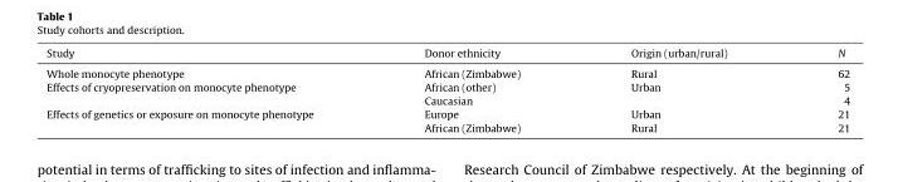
<table><thead><tr><td>Study</td><td>Donor ethnicity</td><td>Origin (urban/rural)</td><td>N</td></tr></thead><tbody><tr><td>Whole monocyte phenotype</td><td>African (Zimbabwe)</td><td>Rural</td><td>62</td></tr><tr><td rowspan="2">Effects of cryopreservation on monocyte phenotype</td><td>African (other)</td><td>Urban</td><td>5</td></tr><tr><td>Caucasian</td><td></td><td>4</td></tr><tr><td rowspan="2">Effects of genetics or exposure on monocyte phenotype</td><td>Europe</td><td>Urban</td><td>21</td></tr><tr><td>African (Zimbabwe)</td><td>Rural</td><td>21</td></tr></tbody></table>